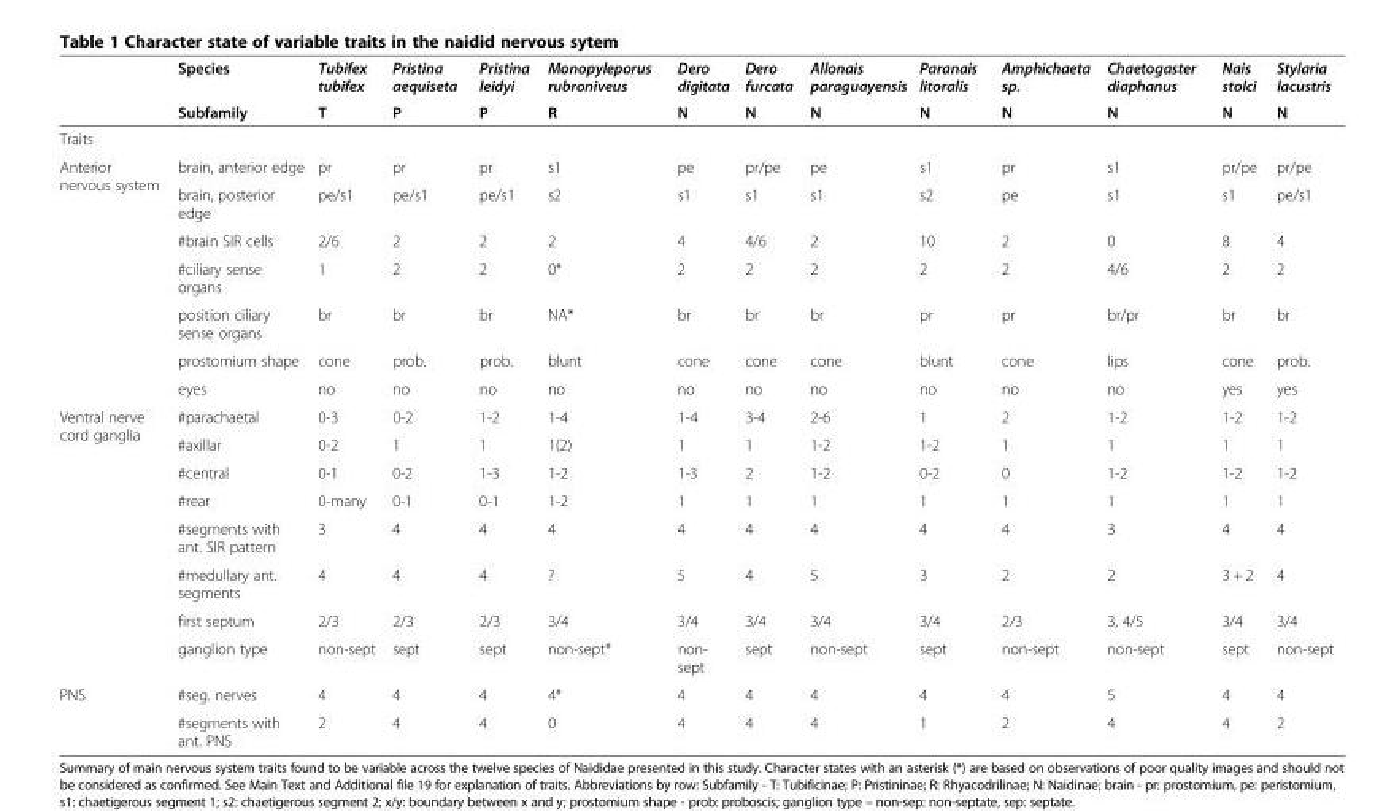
<table><thead><tr><td rowspan="2"></td><td rowspan="2">Species Subfamily</td><td rowspan="2">Tubifex tubifex T</td><td rowspan="2">Pristina aequiseta P</td><td rowspan="2">Pristina leidyi P</td><td rowspan="2">Monopyleporus rubroniveus R</td><td rowspan="2">Dero digitata N</td><td rowspan="2">Dero furcata N</td><td rowspan="2">Allonais paraguayensis N</td><td rowspan="2">Paranais litoralis N</td><td rowspan="2">Amphichaeta sp. N</td><td rowspan="2">Chaetogaster diaphanus N</td><td rowspan="2">Nais stolci N</td><td rowspan="2">Stylaria lacustris N</td></tr><tr></tr></thead><tbody><tr><td colspan="14">Traits</td></tr><tr><td rowspan="7">Anterior nervous system</td><td>brain, anterior edge</td><td>pr</td><td>pr</td><td>pr</td><td>s1</td><td>pe</td><td>pr/pe</td><td>pe</td><td>s1</td><td>pr</td><td>s1</td><td>pr/pe</td><td>pr/pe</td></tr><tr><td>brain, posterior edge</td><td>pe/s1</td><td>pe/s1</td><td>pe/s1</td><td>s2</td><td>s1</td><td>s1</td><td>s1</td><td>s2</td><td>pe</td><td>s1</td><td>s1</td><td>pe/s1</td></tr><tr><td>#brain SIR cells</td><td>2/6</td><td>2</td><td>2</td><td>2</td><td>4</td><td>4/6</td><td>2</td><td>10</td><td>2</td><td>0</td><td>8</td><td>4</td></tr><tr><td>#ciliary sense organs</td><td>1</td><td>2</td><td>2</td><td>0*</td><td>2</td><td>2</td><td>2</td><td>2</td><td>2</td><td>4/6</td><td>2</td><td>2</td></tr><tr><td>position ciliary sense organs</td><td>br</td><td>br</td><td>br</td><td>NA*</td><td>br</td><td>br</td><td>br</td><td>pr</td><td>pr</td><td>br/pr</td><td>br</td><td>br</td></tr><tr><td>prostomium shape</td><td>cone</td><td>prob.</td><td>prob.</td><td>blunt</td><td>cone</td><td>cone</td><td>cone</td><td>blunt</td><td>cone</td><td>lips</td><td>cone</td><td>prob.</td></tr><tr><td>eyes</td><td>no</td><td>no</td><td>no</td><td>no</td><td>no</td><td>no</td><td>no</td><td>no</td><td>no</td><td>no</td><td>yes</td><td>yes</td></tr><tr><td rowspan="8">Ventral nerve cord ganglia</td><td>#parachaetal</td><td>0-3</td><td>0-2</td><td>1-2</td><td>1-4</td><td>1-4</td><td>3-4</td><td>2-6</td><td>1</td><td>2</td><td>1-2</td><td>1-2</td><td>1-2</td></tr><tr><td>#axillar</td><td>0-2</td><td>1</td><td>1</td><td>1(2)</td><td>1</td><td>1</td><td>1-2</td><td>1-2</td><td>1</td><td>1</td><td>1</td><td>1</td></tr><tr><td>#central</td><td>0-1</td><td>0-2</td><td>1-3</td><td>1-2</td><td>1-3</td><td>2</td><td>1-2</td><td>0-2</td><td>0</td><td>1-2</td><td>1-2</td><td>1-2</td></tr><tr><td>#rear</td><td>0-many</td><td>0-1</td><td>0-1</td><td>1-2</td><td>1</td><td>1</td><td>1</td><td>1</td><td>1</td><td>1</td><td>1</td><td>1</td></tr><tr><td>#segments with ant. SIR pattern</td><td>3</td><td>4</td><td>4</td><td>4</td><td>4</td><td>4</td><td>4</td><td>4</td><td>4</td><td>3</td><td>4</td><td>4</td></tr><tr><td>#medullary ant. segments</td><td>4</td><td>4</td><td>4</td><td>?</td><td>5</td><td>4</td><td>5</td><td>3</td><td>2</td><td>2</td><td>3 + 2</td><td>4</td></tr><tr><td>first septum</td><td>2/3</td><td>2/3</td><td>2/3</td><td>3/4</td><td>3/4</td><td>3/4</td><td>3/4</td><td>3/4</td><td>2/3</td><td>3, 4/5</td><td>3/4</td><td>3/4</td></tr><tr><td>ganglion type</td><td>non-sept</td><td>sept</td><td>sept</td><td>non-sept*</td><td>non- sept</td><td>sept</td><td>non-sept</td><td>sept</td><td>non-sept</td><td>non-sept</td><td>sept</td><td>non-sept</td></tr><tr><td rowspan="2">PNS</td><td>#seg. nerves</td><td>4</td><td>4</td><td>4</td><td>4*</td><td>4</td><td>4</td><td>4</td><td>4</td><td>4</td><td>5</td><td>4</td><td>4</td></tr><tr><td>#segments with ant. PNS</td><td>2</td><td>4</td><td>4</td><td>0</td><td>4</td><td>4</td><td>4</td><td>1</td><td>2</td><td>4</td><td>4</td><td>2</td></tr></tbody></table>